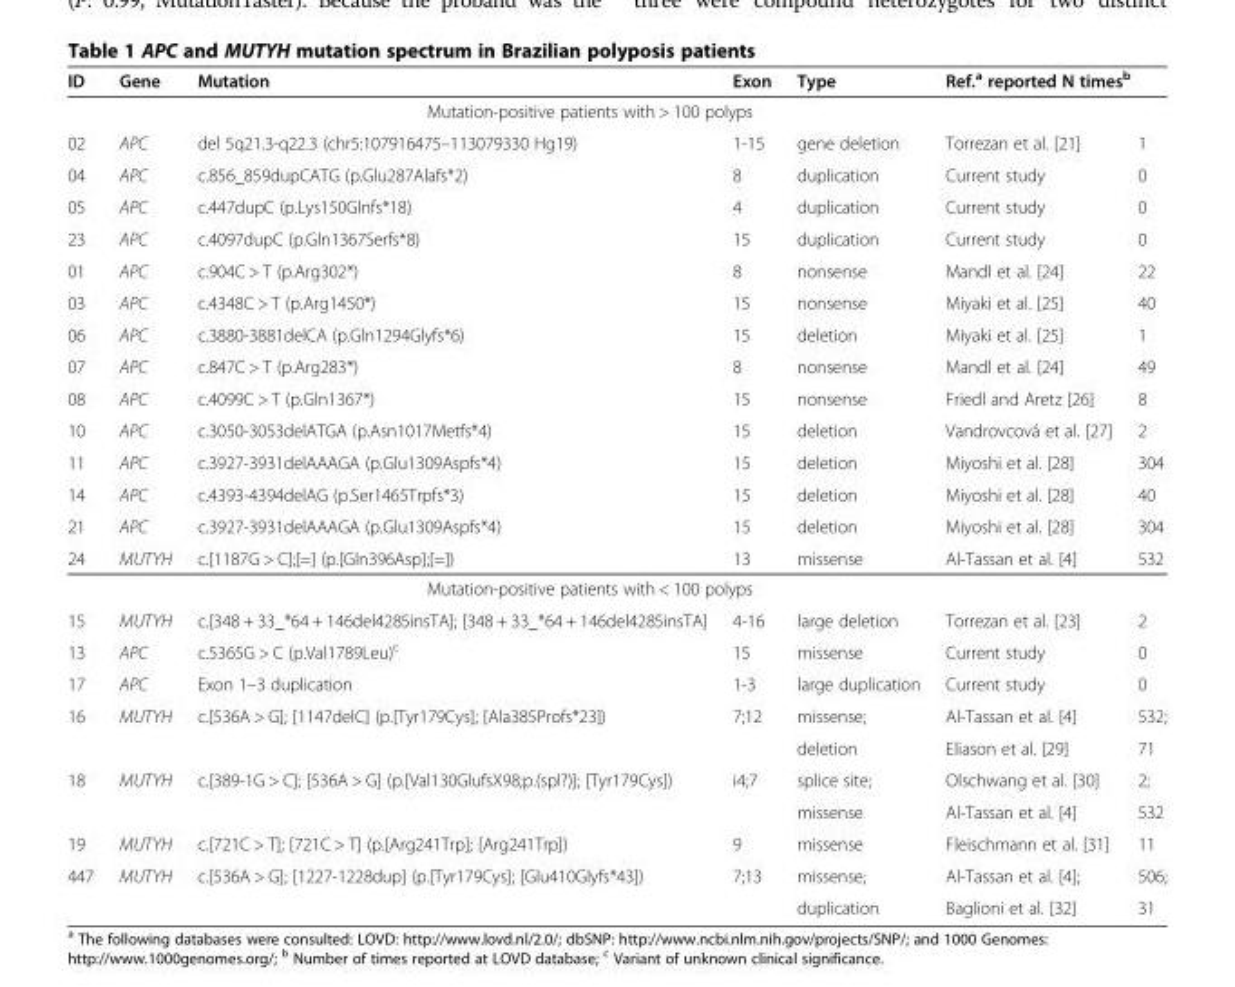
<table><thead><tr><td>ID</td><td>Gene</td><td>Mutation</td><td>Exon</td><td>Type</td><td colspan="2">Ref.<sup>a</sup> reported N times<sup>b</sup></td></tr><tr><td colspan="6">Mutation-positive patients with &gt; 100 polyps</td><td rowspan="2">1</td></tr><tr><td>02</td><td>APC</td><td>del 5q21.3-q22.3 (chr5:107916475–113079330 Hg19)</td><td>1-15</td><td>gene deletion</td><td>Torrezan et al. [21]</td></tr></thead><tbody><tr><td>04</td><td>APC</td><td>c.856_859dupCATG (p.Glu287Alafs*2)</td><td>8</td><td>duplication</td><td>Current study</td><td>0</td></tr><tr><td>05</td><td>APC</td><td>c.447dupC (p.Lys150Glnfs*18)</td><td>4</td><td>duplication</td><td>Current study</td><td>0</td></tr><tr><td>23</td><td>APC</td><td>c.4097dupC (p.Gln1367Serfs*8)</td><td>15</td><td>duplication</td><td>Current study</td><td>0</td></tr><tr><td>01</td><td>APC</td><td>c.904C &gt; T (p.Arg302*)</td><td>8</td><td>nonsense</td><td>Mandl et al. [24]</td><td>22</td></tr><tr><td>03</td><td>APC</td><td>c.4348C &gt; T (p.Arg1450*)</td><td>15</td><td>nonsense</td><td>Miyaki et al. [25]</td><td>40</td></tr><tr><td>06</td><td>APC</td><td>c.3880-3881delCA (p.Gln1294Glyfs*6)</td><td>15</td><td>deletion</td><td>Miyaki et al. [25]</td><td>1</td></tr><tr><td>07</td><td>APC</td><td>c.847C &gt; T (p.Arg283*)</td><td>8</td><td>nonsense</td><td>Mandl et al. [24]</td><td>49</td></tr><tr><td>08</td><td>APC</td><td>c.4099C &gt; T (p.Gln1367*)</td><td>15</td><td>nonsense</td><td>Friedl and Aretz [26]</td><td>8</td></tr><tr><td>10</td><td>APC</td><td>c.3050-3053delATGA (p.Asn1017Metfs*4)</td><td>15</td><td>deletion</td><td>Vandrovcová et al. [27]</td><td>2</td></tr><tr><td>11</td><td>APC</td><td>c.3927-3931delAAAGA (p.Glu1309Aspfs*4)</td><td>15</td><td>deletion</td><td>Miyoshi et al. [28]</td><td>304</td></tr><tr><td>14</td><td>APC</td><td>c.4393-4394delAG (p.Ser1465Trpfs*3)</td><td>15</td><td>deletion</td><td>Miyoshi et al. [28]</td><td>40</td></tr><tr><td>21</td><td>APC</td><td>c.3927-3931delAAAGA (p.Glu1309Aspfs*4)</td><td>15</td><td>deletion</td><td>Miyoshi et al. [28]</td><td>304</td></tr><tr><td>24</td><td>MUTYH</td><td>c.[1187G &gt; C];[=] (p.[Gln396Asp];[=])</td><td>13</td><td>missense</td><td>Al-Tassan et al. [4]</td><td>532</td></tr><tr><td colspan="7">Mutation-positive patients with &lt; 100 polyps</td></tr><tr><td>15</td><td>MUTYH</td><td>c.[348 + 33_*64 + 146del4285insTA]; [348 + 33_*64 + 146del4285insTA]</td><td>4-16</td><td>large deletion</td><td>Torrezan et al. [23]</td><td>2</td></tr><tr><td>13</td><td>APC</td><td>c.5365G &gt; C (p.Val1789Leu)<sup>c</sup></td><td>15</td><td>missense</td><td>Current study</td><td>0</td></tr><tr><td>17</td><td>APC</td><td>Exon 1–3 duplication</td><td>1-3</td><td>large duplication</td><td>Current study</td><td>0</td></tr><tr><td rowspan="2">16</td><td rowspan="2">MUTYH</td><td rowspan="2">c.[536A &gt; G]; [1147delC] (p.[Tyr179Cys]; [Ala385Profs*23])</td><td rowspan="2">7;12</td><td>missense;</td><td>Al-Tassan et al. [4]</td><td>532;</td></tr><tr><td>deletion</td><td>Eliason et al. [29]</td><td>71</td></tr><tr><td rowspan="2">18</td><td rowspan="2">MUTYH</td><td rowspan="2">c.[389-1G &gt; C]; [536A &gt; G] (p.[Val130GlufsX98;p.(spl?)]; [Tyr179Cys])</td><td rowspan="2">i4;7</td><td>splice site;</td><td>Olschwang et al. [30]</td><td>2;</td></tr><tr><td>missense</td><td>Al-Tassan et al. [4]</td><td>532</td></tr><tr><td>19</td><td>MUTYH</td><td>c.[721C &gt; T]; [721C &gt; T] (p.[Arg241Trp]; [Arg241Trp])</td><td>9</td><td>missense</td><td>Fleischmann et al. [31]</td><td>11</td></tr><tr><td rowspan="2">447</td><td>MUTYH</td><td>c.[536A &gt; G]; [1227-1228dup] (p.[Tyr179Cys]; [Glu410Glyfs*43])</td><td>7;13</td><td>missense;</td><td>Al-Tassan et al. [4];</td><td>506;</td></tr><tr><td></td><td></td><td></td><td>duplication</td><td>Baglioni et al. [32]</td><td>31</td></tr></tbody></table>